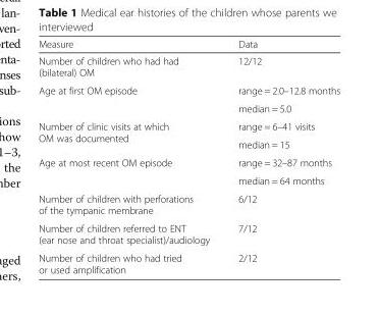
<table><thead><tr><td>Measure</td><td>Data</td></tr></thead><tbody><tr><td>Number of children who had had (bilateral) OM</td><td>12/12</td></tr><tr><td rowspan="2">Age at first OM episode</td><td>range = 2.0–12.8 months</td></tr><tr><td>median = 5.0</td></tr><tr><td rowspan="2">Number of clinic visits at which OM was documented</td><td>range = 6–41 visits</td></tr><tr><td>median = 15</td></tr><tr><td rowspan="2">Age at most recent OM episode</td><td>range = 32–87 months</td></tr><tr><td>median = 64 months</td></tr><tr><td>Number of children with perforations of the tympanic membrane</td><td>6/12</td></tr><tr><td>Number of children referred to ENT (ear nose and throat specialist)/audiology</td><td>7/12</td></tr><tr><td>Number of children who had tried or used amplification</td><td>2/12</td></tr></tbody></table>